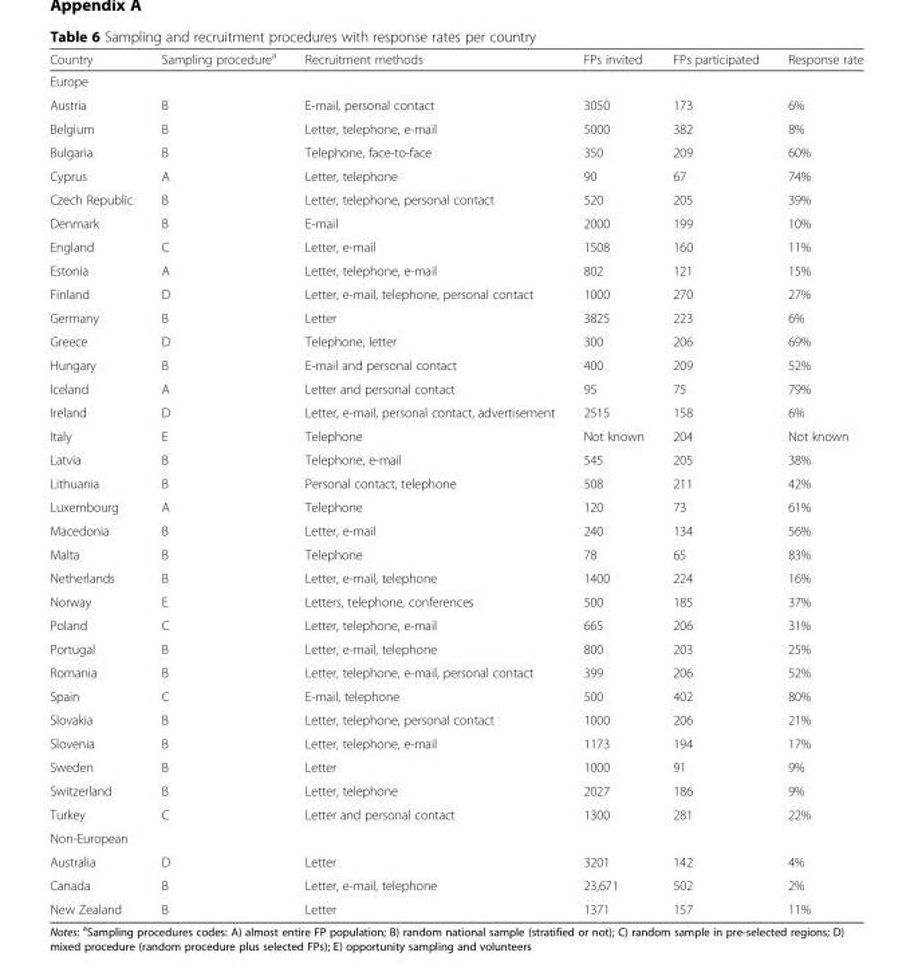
<table><thead><tr><td>Country</td><td>Sampling procedure<sup>a</sup></td><td>Recruitment methods</td><td>FPs invited</td><td>FPs participated</td><td>Response rate</td></tr></thead><tbody><tr><td colspan="6">Europe</td></tr><tr><td>Austria</td><td>B</td><td>E-mail, personal contact</td><td>3050</td><td>173</td><td>6%</td></tr><tr><td>Belgium</td><td>B</td><td>Letter, telephone, e-mail</td><td>5000</td><td>382</td><td>8%</td></tr><tr><td>Bulgaria</td><td>B</td><td>Telephone, face-to-face</td><td>350</td><td>209</td><td>60%</td></tr><tr><td>Cyprus</td><td>A</td><td>Letter, telephone</td><td>90</td><td>67</td><td>74%</td></tr><tr><td>Czech Republic</td><td>B</td><td>Letter, telephone, personal contact</td><td>520</td><td>205</td><td>39%</td></tr><tr><td>Denmark</td><td>B</td><td>E-mail</td><td>2000</td><td>199</td><td>10%</td></tr><tr><td>England</td><td>C</td><td>Letter, e-mail</td><td>1508</td><td>160</td><td>11%</td></tr><tr><td>Estonia</td><td>A</td><td>Letter, telephone, e-mail</td><td>802</td><td>121</td><td>15%</td></tr><tr><td>Finland</td><td>D</td><td>Letter, e-mail, telephone, personal contact</td><td>1000</td><td>270</td><td>27%</td></tr><tr><td>Germany</td><td>B</td><td>Letter</td><td>3825</td><td>223</td><td>6%</td></tr><tr><td>Greece</td><td>D</td><td>Telephone, letter</td><td>300</td><td>206</td><td>69%</td></tr><tr><td>Hungary</td><td>B</td><td>E-mail and personal contact</td><td>400</td><td>209</td><td>52%</td></tr><tr><td>Iceland</td><td>A</td><td>Letter and personal contact</td><td>95</td><td>75</td><td>79%</td></tr><tr><td>Ireland</td><td>D</td><td>Letter, e-mail, personal contact, advertisement</td><td>2515</td><td>158</td><td>6%</td></tr><tr><td>Italy</td><td>E</td><td>Telephone</td><td>Not known</td><td>204</td><td>Not known</td></tr><tr><td>Latvia</td><td>B</td><td>Telephone, e-mail</td><td>545</td><td>205</td><td>38%</td></tr><tr><td>Lithuania</td><td>B</td><td>Personal contact, telephone</td><td>508</td><td>211</td><td>42%</td></tr><tr><td>Luxembourg</td><td>A</td><td>Telephone</td><td>120</td><td>73</td><td>61%</td></tr><tr><td>Macedonia</td><td>B</td><td>Letter, e-mail</td><td>240</td><td>134</td><td>56%</td></tr><tr><td>Malta</td><td>B</td><td>Telephone</td><td>78</td><td>65</td><td>83%</td></tr><tr><td>Netherlands</td><td>B</td><td>Letter, e-mail, telephone</td><td>1400</td><td>224</td><td>16%</td></tr><tr><td>Norway</td><td>E</td><td>Letters, telephone, conferences</td><td>500</td><td>185</td><td>37%</td></tr><tr><td>Poland</td><td>C</td><td>Letter, telephone, e-mail</td><td>665</td><td>206</td><td>31%</td></tr><tr><td>Portugal</td><td>B</td><td>Letter, e-mail, telephone</td><td>800</td><td>203</td><td>25%</td></tr><tr><td>Romania</td><td>B</td><td>Letter, telephone, e-mail, personal contact</td><td>399</td><td>206</td><td>52%</td></tr><tr><td>Spain</td><td>C</td><td>E-mail, telephone</td><td>500</td><td>402</td><td>80%</td></tr><tr><td>Slovakia</td><td>B</td><td>Letter, telephone, personal contact</td><td>1000</td><td>206</td><td>21%</td></tr><tr><td>Slovenia</td><td>B</td><td>Letter, telephone, e-mail</td><td>1173</td><td>194</td><td>17%</td></tr><tr><td>Sweden</td><td>B</td><td>Letter</td><td>1000</td><td>91</td><td>9%</td></tr><tr><td>Switzerland</td><td>B</td><td>Letter, telephone</td><td>2027</td><td>186</td><td>9%</td></tr><tr><td>Turkey</td><td>C</td><td>Letter and personal contact</td><td>1300</td><td>281</td><td>22%</td></tr><tr><td colspan="6">Non-European</td></tr><tr><td>Australia</td><td>D</td><td>Letter</td><td>3201</td><td>142</td><td>4%</td></tr><tr><td>Canada</td><td>B</td><td>Letter, e-mail, telephone</td><td>23,671</td><td>502</td><td>2%</td></tr><tr><td>New Zealand</td><td>B</td><td>Letter</td><td>1371</td><td>157</td><td>11%</td></tr></tbody></table>